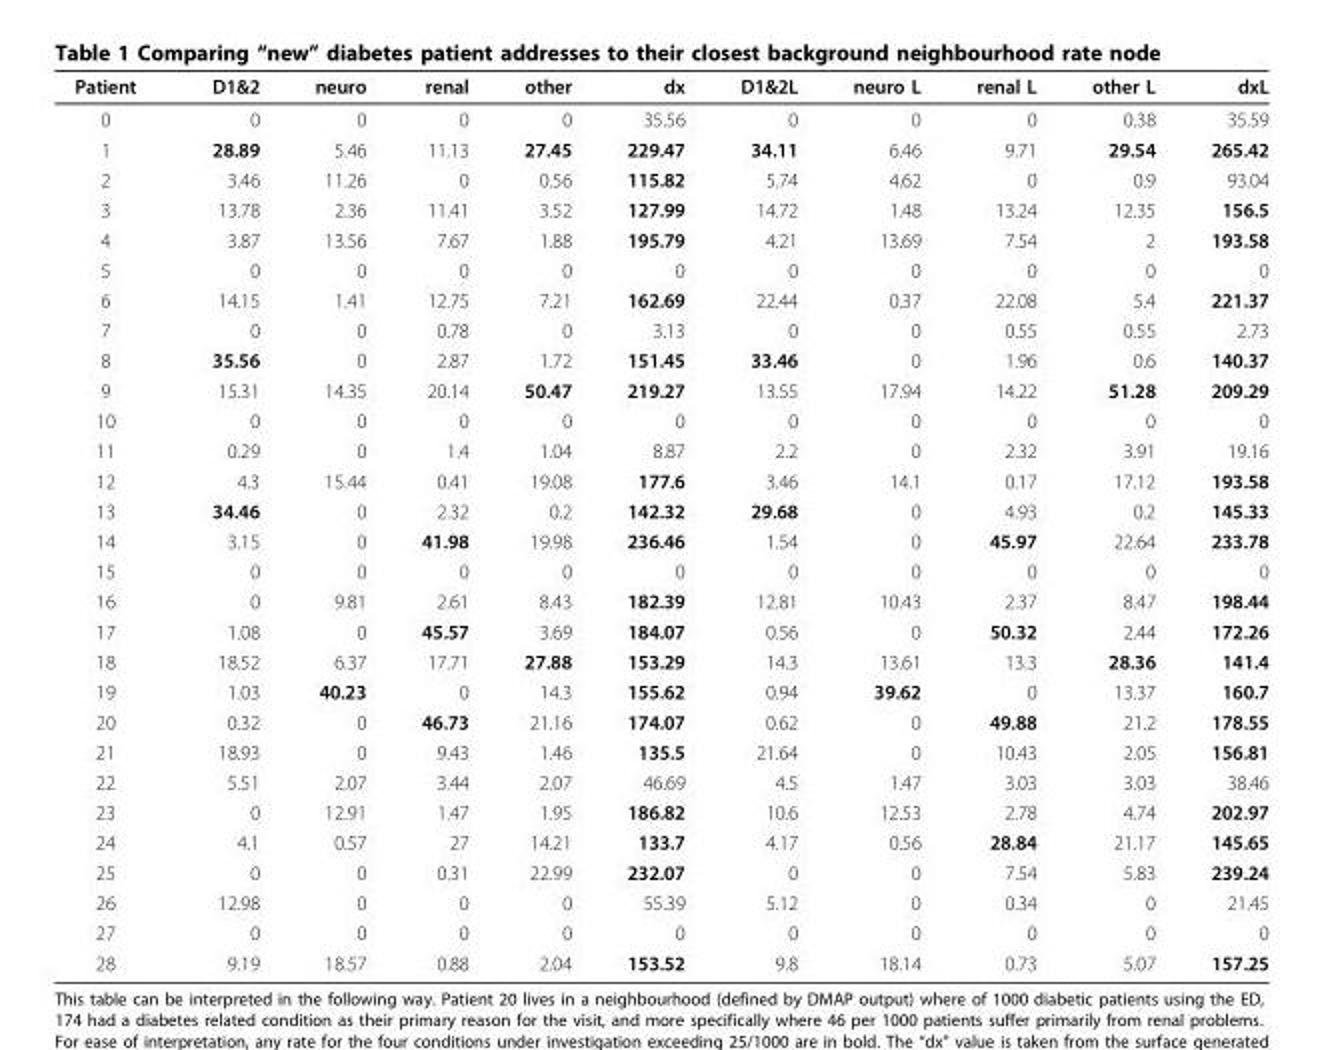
<table><thead><tr><td>Patient</td><td>D1&amp;2</td><td>neuro</td><td>renal</td><td>other</td><td>dx</td><td>D1&amp;2L</td><td>neuro L</td><td>renal L</td><td>other L</td><td>dxL</td></tr></thead><tbody><tr><td>0</td><td>0</td><td>0</td><td>0</td><td>0</td><td>35.56</td><td>0</td><td>0</td><td>0</td><td>0.38</td><td>35.59</td></tr><tr><td>1</td><td>28.89</td><td>5.46</td><td>11.13</td><td>27.45</td><td>229.47</td><td>34.11</td><td>6.46</td><td>9.71</td><td>29.54</td><td>265.42</td></tr><tr><td>2</td><td>3.46</td><td>11.26</td><td>0</td><td>0.56</td><td>115.82</td><td>5.74</td><td>4.62</td><td>0</td><td>0.9</td><td>93.04</td></tr><tr><td>3</td><td>13.78</td><td>2.36</td><td>11.41</td><td>3.52</td><td>127.99</td><td>14.72</td><td>1.48</td><td>13.24</td><td>12.35</td><td>156.5</td></tr><tr><td>4</td><td>3.87</td><td>13.56</td><td>7.67</td><td>1.88</td><td>195.79</td><td>4.21</td><td>13.69</td><td>7.54</td><td>2</td><td>193.58</td></tr><tr><td>5</td><td>0</td><td>0</td><td>0</td><td>0</td><td>0</td><td>0</td><td>0</td><td>0</td><td>0</td><td>0</td></tr><tr><td>6</td><td>14.15</td><td>1.41</td><td>12.75</td><td>7.21</td><td>162.69</td><td>22.44</td><td>0.37</td><td>22.08</td><td>5.4</td><td>221.37</td></tr><tr><td>7</td><td>0</td><td>0</td><td>0.78</td><td>0</td><td>3.13</td><td>0</td><td>0</td><td>0.55</td><td>0.55</td><td>2.73</td></tr><tr><td>8</td><td>35.56</td><td>0</td><td>2.87</td><td>1.72</td><td>151.45</td><td>33.46</td><td>0</td><td>1.96</td><td>0.6</td><td>140.37</td></tr><tr><td>9</td><td>15.31</td><td>14.35</td><td>20.14</td><td>50.47</td><td>219.27</td><td>13.55</td><td>17.94</td><td>14.22</td><td>51.28</td><td>209.29</td></tr><tr><td>10</td><td>0</td><td>0</td><td>0</td><td>0</td><td>0</td><td>0</td><td>0</td><td>0</td><td>0</td><td>0</td></tr><tr><td>11</td><td>0.29</td><td>0</td><td>1.4</td><td>1.04</td><td>8.87</td><td>2.2</td><td>0</td><td>2.32</td><td>3.91</td><td>19.16</td></tr><tr><td>12</td><td>4.3</td><td>15.44</td><td>0.41</td><td>19.08</td><td>177.6</td><td>3.46</td><td>14.1</td><td>0.17</td><td>17.12</td><td>193.58</td></tr><tr><td>13</td><td>34.46</td><td>0</td><td>2.32</td><td>0.2</td><td>142.32</td><td>29.68</td><td>0</td><td>4.93</td><td>0.2</td><td>145.33</td></tr><tr><td>14</td><td>3.15</td><td>0</td><td>41.98</td><td>19.98</td><td>236.46</td><td>1.54</td><td>0</td><td>45.97</td><td>22.64</td><td>233.78</td></tr><tr><td>15</td><td>0</td><td>0</td><td>0</td><td>0</td><td>0</td><td>0</td><td>0</td><td>0</td><td>0</td><td>0</td></tr><tr><td>16</td><td>0</td><td>9.81</td><td>2.61</td><td>8.43</td><td>182.39</td><td>12.81</td><td>10.43</td><td>2.37</td><td>8.47</td><td>198.44</td></tr><tr><td>17</td><td>1.08</td><td>0</td><td>45.57</td><td>3.69</td><td>184.07</td><td>0.56</td><td>0</td><td>50.32</td><td>2.44</td><td>172.26</td></tr><tr><td>18</td><td>18.52</td><td>6.37</td><td>17.71</td><td>27.88</td><td>153.29</td><td>14.3</td><td>13.61</td><td>13.3</td><td>28.36</td><td>141.4</td></tr><tr><td>19</td><td>1.03</td><td>40.23</td><td>0</td><td>14.3</td><td>155.62</td><td>0.94</td><td>39.62</td><td>0</td><td>13.37</td><td>160.7</td></tr><tr><td>20</td><td>0.32</td><td>0</td><td>46.73</td><td>21.16</td><td>174.07</td><td>0.62</td><td>0</td><td>49.88</td><td>21.2</td><td>178.55</td></tr><tr><td>21</td><td>18.93</td><td>0</td><td>9.43</td><td>1.46</td><td>135.5</td><td>21.64</td><td>0</td><td>10.43</td><td>2.05</td><td>156.81</td></tr><tr><td>22</td><td>5.51</td><td>2.07</td><td>3.44</td><td>2.07</td><td>46.69</td><td>4.5</td><td>1.47</td><td>3.03</td><td>3.03</td><td>38.46</td></tr><tr><td>23</td><td>0</td><td>12.91</td><td>1.47</td><td>1.95</td><td>186.82</td><td>10.6</td><td>12.53</td><td>2.78</td><td>4.74</td><td>202.97</td></tr><tr><td>24</td><td>4.1</td><td>0.57</td><td>27</td><td>14.21</td><td>133.7</td><td>4.17</td><td>0.56</td><td>28.84</td><td>21.17</td><td>145.65</td></tr><tr><td>25</td><td>0</td><td>0</td><td>0.31</td><td>22.99</td><td>232.07</td><td>0</td><td>0</td><td>7.54</td><td>5.83</td><td>239.24</td></tr><tr><td>26</td><td>12.98</td><td>0</td><td>0</td><td>0</td><td>55.39</td><td>5.12</td><td>0</td><td>0.34</td><td>0</td><td>21.45</td></tr><tr><td>27</td><td>0</td><td>0</td><td>0</td><td>0</td><td>0</td><td>0</td><td>0</td><td>0</td><td>0</td><td>0</td></tr><tr><td>28</td><td>9.19</td><td>18.57</td><td>0.88</td><td>2.04</td><td>153.52</td><td>9.8</td><td>18.14</td><td>0.73</td><td>5.07</td><td>157.25</td></tr></tbody></table>